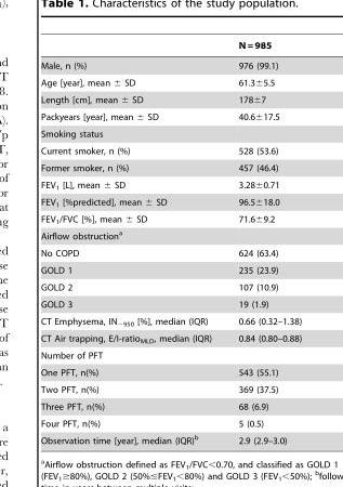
<table><thead><tr><td></td><td>N = 985</td></tr></thead><tbody><tr><td>Male, n (%)</td><td>976 (99.1)</td></tr><tr><td>Age [year], mean ± SD</td><td>61.3±5.5</td></tr><tr><td>Length [cm], mean ± SD</td><td>178±7</td></tr><tr><td>Packyears [year], mean ± SD</td><td>40.6±17.5</td></tr><tr><td colspan="2">Smoking status</td></tr><tr><td>Current smoker, n (%)</td><td>528 (53.6)</td></tr><tr><td>Former smoker, n (%)</td><td>457 (46.4)</td></tr><tr><td>FEV<sub>1</sub> [L], mean ± SD</td><td>3.28±0.71</td></tr><tr><td>FEV<sub>1</sub> [%predicted], mean ± SD</td><td>96.5±18.0</td></tr><tr><td>FEV<sub>1</sub>/FVC [%], mean ± SD</td><td>71.6±9.2</td></tr><tr><td colspan="2">Airflow obstruction<sup>a</sup></td></tr><tr><td>No COPD</td><td>624 (63.4)</td></tr><tr><td>GOLD 1</td><td>235 (23.9)</td></tr><tr><td>GOLD 2</td><td>107 (10.9)</td></tr><tr><td>GOLD 3</td><td>19 (1.9)</td></tr><tr><td>CT Emphysema, IN<sub>−950</sub> [%], median (IQR)</td><td>0.66 (0.32–1.38)</td></tr><tr><td>CT Air trapping, E/I-ratio<sub>MLD</sub>, median (IQR)</td><td>0.84 (0.80–0.88)</td></tr><tr><td colspan="2">Number of PFT</td></tr><tr><td>One PFT, n(%)</td><td>543 (55.1)</td></tr><tr><td>Two PFT, n(%)</td><td>369 (37.5)</td></tr><tr><td>Three PFT, n(%)</td><td>68 (6.9)</td></tr><tr><td>Four PFT, n(%)</td><td>5 (0.5)</td></tr><tr><td>Observation time [year], median (IQR)<sup>b</sup></td><td>2.9 (2.9–3.0)</td></tr></tbody></table>